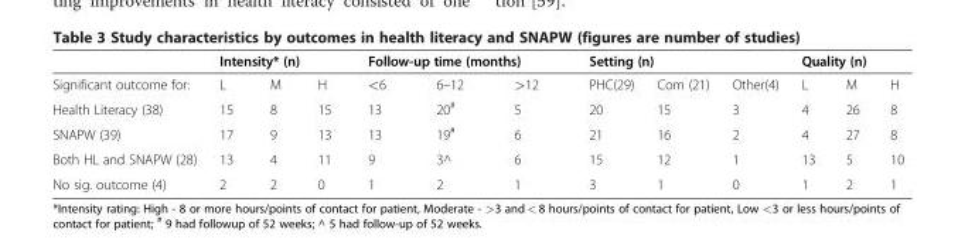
<table><thead><tr><td rowspan="2">Significant outcome for:</td><td colspan="3">Intensity* (n)</td><td colspan="3">Follow-up time (months)</td><td colspan="3">Setting (n)</td><td colspan="3">Quality (n)</td></tr><tr><td>L</td><td>M</td><td>H</td><td>&lt;6</td><td>6–12</td><td>&gt;12</td><td>PHC(29)</td><td>Com (21)</td><td>Other(4)</td><td>L</td><td>M</td><td>H</td></tr></thead><tbody><tr><td>Health Literacy (38)</td><td>15</td><td>8</td><td>15</td><td>13</td><td>20<sup>#</sup></td><td>5</td><td>20</td><td>15</td><td>3</td><td>4</td><td>26</td><td>8</td></tr><tr><td>SNAPW (39)</td><td>17</td><td>9</td><td>13</td><td>13</td><td>19<sup>#</sup></td><td>6</td><td>21</td><td>16</td><td>2</td><td>4</td><td>27</td><td>8</td></tr><tr><td>Both HL and SNAPW (28)</td><td>13</td><td>4</td><td>11</td><td>9</td><td>3^</td><td>6</td><td>15</td><td>12</td><td>1</td><td>13</td><td>5</td><td>10</td></tr><tr><td>No sig. outcome (4)</td><td>2</td><td>2</td><td>0</td><td>1</td><td>2</td><td>1</td><td>3</td><td>1</td><td>0</td><td>1</td><td>2</td><td>1</td></tr></tbody></table>